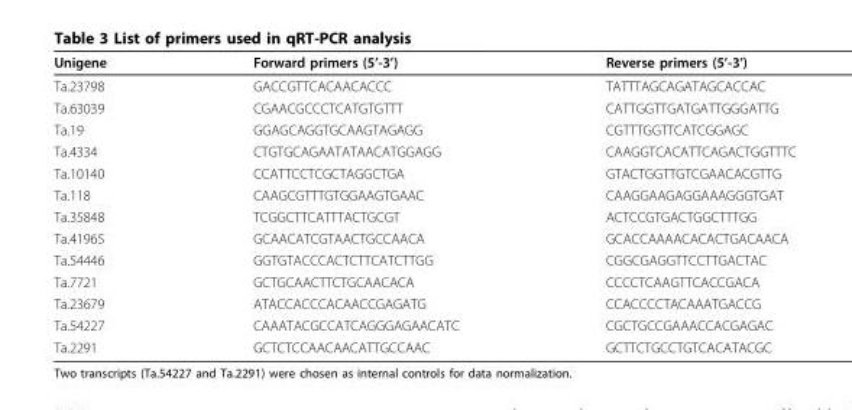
<table><thead><tr><td>Unigene</td><td>Forward primers (5’-3’)</td><td>Reverse primers (5’-3’)</td></tr></thead><tbody><tr><td>Ta.23798</td><td>GACCGTTCACAACACCC</td><td>TATTTAGCAGATAGCACCAC</td></tr><tr><td>Ta.63039</td><td>CGAACGCCCTCATGTGTTT</td><td>CATTGGTTGATGATTGGGATTG</td></tr><tr><td>Ta.19</td><td>GGAGCAGGTGCAAGTAGAGG</td><td>CGTTTGGTTCATCGGAGC</td></tr><tr><td>Ta.4334</td><td>CTGTGCAGAATATAACATGGAGG</td><td>CAAGGTCACATTCAGACTGGTTTC</td></tr><tr><td>Ta.10140</td><td>CCATTCCTCGCTAGGCTGA</td><td>GTACTGGTTGTCGAACACGTTG</td></tr><tr><td>Ta.118</td><td>CAAGCGTTTGTGGAAGTGAAC</td><td>CAAGGAAGAGGAAAGGGTGAT</td></tr><tr><td>Ta.35848</td><td>TCGGCTTCATTTACTGCGT</td><td>ACTCCGTGACTGGCTTTGG</td></tr><tr><td>Ta.41965</td><td>GCAACATCGTAACTGCCAACA</td><td>GCACCAAAACACACTGACAACA</td></tr><tr><td>Ta.54446</td><td>GGTGTACCCACTCTTCATCTTGG</td><td>CGGCGAGGTTCCTTGACTAC</td></tr><tr><td>Ta.7721</td><td>GCTGCAACTTCTGCAACACA</td><td>CCCCTCAAGTTCACCGACA</td></tr><tr><td>Ta.23679</td><td>ATACCACCCACAACCGAGATG</td><td>CCACCCCTACAAATGACCG</td></tr><tr><td>Ta.54227</td><td>CAAATACGCCATCAGGGAGAACATC</td><td>CGCTGCCGAAACCACGAGAC</td></tr><tr><td>Ta.2291</td><td>GCTCTCCAACAACATTGCCAAC</td><td>GCTTCTGCCTGTCACATACGC</td></tr></tbody></table>